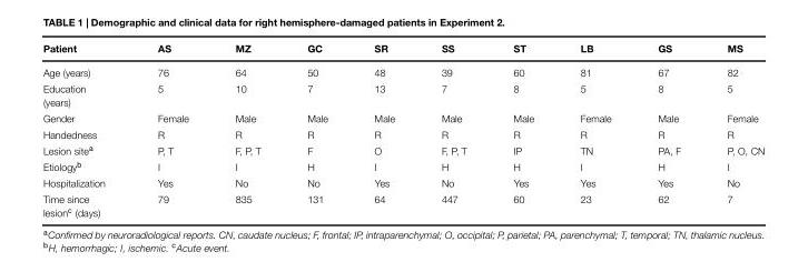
<table><thead><tr><td>Patient</td><td>AS</td><td>MZ</td><td>GC</td><td>SR</td><td>SS</td><td>ST</td><td>LB</td><td>GS</td><td>MS</td></tr></thead><tbody><tr><td>Age (years)</td><td>76</td><td>64</td><td>50</td><td>48</td><td>39</td><td>60</td><td>81</td><td>67</td><td>82</td></tr><tr><td>Education (years)</td><td>5</td><td>10</td><td>7</td><td>13</td><td>7</td><td>8</td><td>5</td><td>8</td><td>5</td></tr><tr><td>Gender</td><td>Female</td><td>Male</td><td>Male</td><td>Male</td><td>Male</td><td>Male</td><td>Female</td><td>Male</td><td>Female</td></tr><tr><td>Handedness</td><td>R</td><td>R</td><td>R</td><td>R</td><td>R</td><td>R</td><td>R</td><td>R</td><td>R</td></tr><tr><td>Lesion site<sup>a</sup></td><td>P, T</td><td>F, P, T</td><td>F</td><td>O</td><td>F, P, T</td><td>IP</td><td>TN</td><td>PA, F</td><td>P, O, CN</td></tr><tr><td>Etiology<sup>b</sup></td><td>I</td><td>I</td><td>H</td><td>I</td><td>H</td><td>H</td><td>I</td><td>H</td><td>I</td></tr><tr><td>Hospitalization</td><td>Yes</td><td>No</td><td>No</td><td>Yes</td><td>No</td><td>Yes</td><td>Yes</td><td>Yes</td><td>No</td></tr><tr><td>Time since lesion<sup>c</sup> (days)</td><td>79</td><td>835</td><td>131</td><td>64</td><td>447</td><td>60</td><td>23</td><td>62</td><td>7</td></tr></tbody></table>